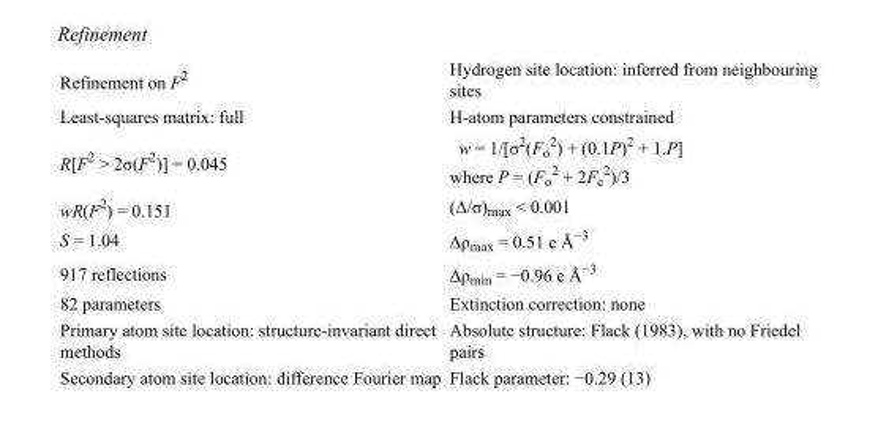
<table><tbody><tr><td>Refinement on F<sup>2</sup></td><td>Hydrogen site location: inferred from neighbouring sites</td></tr><tr><td>Least-squares matrix: full</td><td>H-atom parameters constrained</td></tr><tr><td>R[F<sup>2</sup> &gt; 2σ(F<sup>2</sup>)] = 0.045</td><td>w = 1/[σ<sup>2</sup>(F<sub>o</sub> <sup>2</sup>) + (0.1P)<sup>2</sup> + 1.P] where P = (F<sub>o</sub> <sup>2</sup> + 2F<sub>c</sub> <sup>2</sup>)/3</td></tr><tr><td>wR(F<sup>2</sup>) = 0.151</td><td>(Δ/σ)<sub>max</sub> &lt; 0.001</td></tr><tr><td>S = 1.04</td><td>Δρ<sub>max</sub> = 0.51 e Å<sup>−3</sup></td></tr><tr><td>917 reflections</td><td>Δρ<sub>min</sub> = −0.96 e Å<sup>−3</sup></td></tr><tr><td>82 parameters</td><td>Extinction correction: none</td></tr><tr><td>Primary atom site location: structure-invariant direct methods</td><td>Absolute structure: Flack (1983), with no Friedel pairs</td></tr><tr><td>Secondary atom site location: difference Fourier map</td><td>Flack parameter: −0.29 (13)</td></tr></tbody></table>